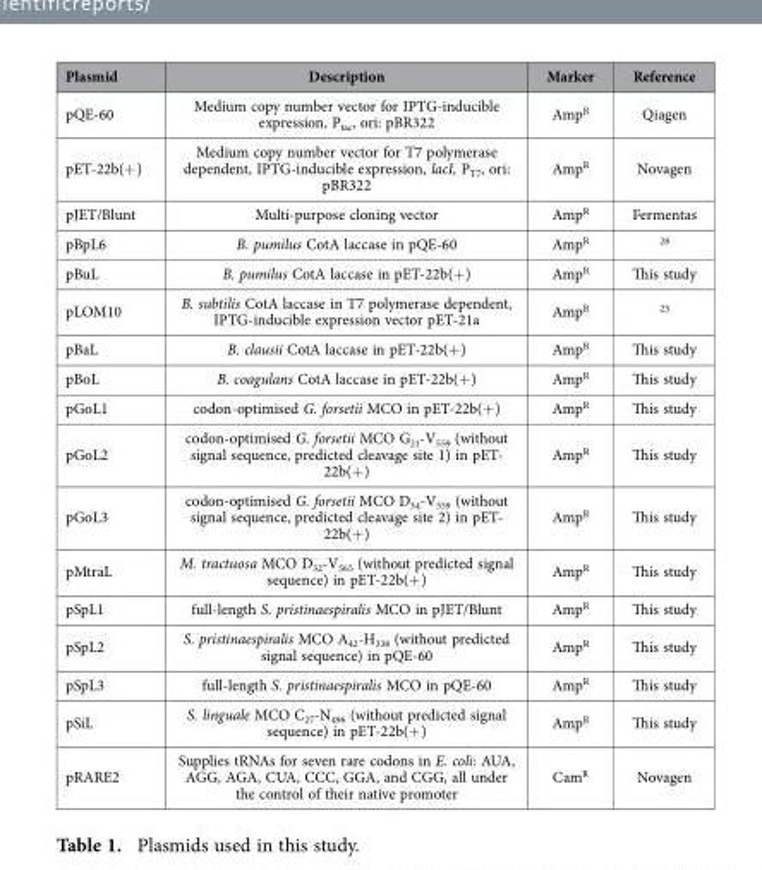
<table><thead><tr><td>Plasmid</td><td>Description</td><td>Marker</td><td>Reference</td></tr></thead><tbody><tr><td>pQE-60</td><td>Medium copy number vector for IPTG-inducible expression, P<sub>tac</sub>, ori: pBR322</td><td>Amp<sup>R</sup></td><td>Qiagen</td></tr><tr><td>pET-22b(+ )</td><td>Medium copy number vector for T7 polymerase dependent, IPTG-inducible expression, lacI, P<sub>T7</sub>, ori: pBR322</td><td>Amp<sup>R</sup></td><td>Novagen</td></tr><tr><td>pJET/Blunt</td><td>Multi-purpose cloning vector</td><td>Amp<sup>R</sup></td><td>Fermentas</td></tr><tr><td>pBpL6</td><td>B. pumilus CotA laccase in pQE-60</td><td>Amp<sup>R</sup></td><td>28</td></tr><tr><td>pBuL</td><td>B. pumilus CotA laccase in pET-22b(+ )</td><td>Amp<sup>R</sup></td><td>This study</td></tr><tr><td>pLOM10</td><td>B. subtilis CotA laccase in T7 polymerase dependent, IPTG-inducible expression vector pET-21a</td><td>Amp<sup>R</sup></td><td>23</td></tr><tr><td>pBaL</td><td>B. clausii CotA laccase in pET-22b(+ )</td><td>Amp<sup>R</sup></td><td>This study</td></tr><tr><td>pBoL</td><td>B. coagulans CotA laccase in pET-22b(+ )</td><td>Amp<sup>R</sup></td><td>This study</td></tr><tr><td>pGoL1</td><td>codon-optimised G. forsetii MCO in pET-22b(+ )</td><td>Amp<sup>R</sup></td><td>This study</td></tr><tr><td>pGoL2</td><td>codon-optimised G. forsetii MCO G<sub>21</sub>-V<sub>559</sub> (without signal sequence, predicted cleavage site 1) in pET- 22b(+ )</td><td>Amp<sup>R</sup></td><td>This study</td></tr><tr><td>pGoL3</td><td>codon-optimised G. forsetii MCO D<sub>34</sub>-V<sub>559</sub> (without signal sequence, predicted cleavage site 2) in pET- 22b(+ )</td><td>Amp<sup>R</sup></td><td>This study</td></tr><tr><td>pMtraL</td><td>M. tractuosa MCO D<sub>32</sub>-V<sub>565</sub> (without predicted signal sequence) in pET-22b(+ )</td><td>Amp<sup>R</sup></td><td>This study</td></tr><tr><td>pSpL1</td><td>full-length S. pristinaespiralis MCO in pJET/Blunt</td><td>Amp<sup>R</sup></td><td>This study</td></tr><tr><td>pSpL2</td><td>S. pristinaespiralis MCO A<sub>42</sub>-H<sub>338</sub> (without predicted signal sequence) in pQE-60</td><td>Amp<sup>R</sup></td><td>This study</td></tr><tr><td>pSpL3</td><td>full-length S. pristinaespiralis MCO in pQE-60</td><td>Amp<sup>R</sup></td><td>This study</td></tr><tr><td>pSiL</td><td>S. linguale MCO C<sub>27</sub>-N<sub>496</sub> (without predicted signal sequence) in pET-22b(+ )</td><td>Amp<sup>R</sup></td><td>This study</td></tr><tr><td>pRARE2</td><td>Supplies tRNAs for seven rare codons in E. coli: AUA, AGG, AGA, CUA, CCC, GGA, and CGG, all under the control of their native promoter</td><td>Cam<sup>R</sup></td><td>Novagen</td></tr></tbody></table>